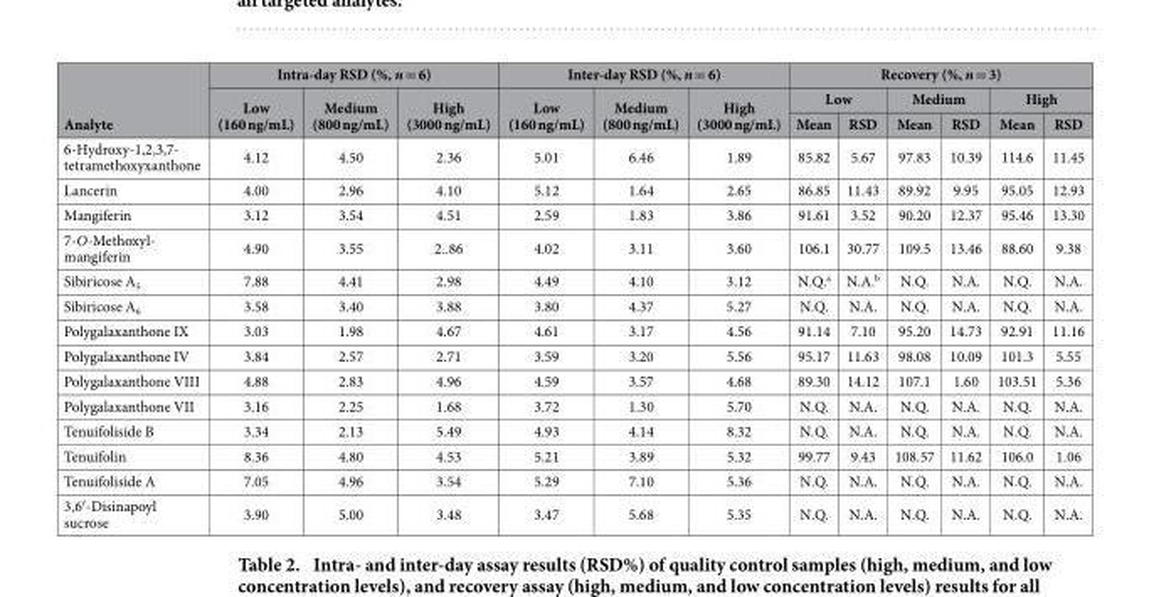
<table><thead><tr><td rowspan="3">Analyte</td><td colspan="3">Intra-day RSD (%, n = 6)</td><td colspan="3">Inter-day RSD (%, n = 6)</td><td colspan="6">Recovery (%, n = 3)</td></tr><tr><td rowspan="2">Low (160 ng/mL)</td><td rowspan="2">Medium (800 ng/mL)</td><td rowspan="2">High (3000 ng/mL)</td><td rowspan="2">Low (160 ng/mL)</td><td rowspan="2">Medium (800 ng/mL)</td><td rowspan="2">High (3000 ng/mL)</td><td colspan="2">Low</td><td colspan="2">Medium</td><td colspan="2">High</td></tr><tr><td>Mean</td><td>RSD</td><td>Mean</td><td>RSD</td><td>Mean</td><td>RSD</td></tr></thead><tbody><tr><td>6-Hydroxy-1,2,3,7- tetramethoxyxanthone</td><td>4.12</td><td>4.50</td><td>2.36</td><td>5.01</td><td>6.46</td><td>1.89</td><td>85.82</td><td>5.67</td><td>97.83</td><td>10.39</td><td>114.6</td><td>11.45</td></tr><tr><td>Lancerin</td><td>4.00</td><td>2.96</td><td>4.10</td><td>5.12</td><td>1.64</td><td>2.65</td><td>86.85</td><td>11.43</td><td>89.92</td><td>9.95</td><td>95.05</td><td>12.93</td></tr><tr><td>Mangiferin</td><td>3.12</td><td>3.54</td><td>4.51</td><td>2.59</td><td>1.83</td><td>3.86</td><td>91.61</td><td>3.52</td><td>90.20</td><td>12.37</td><td>95.46</td><td>13.30</td></tr><tr><td>7-O-Methoxyl- mangiferin</td><td>4.90</td><td>3.55</td><td>2..86</td><td>4.02</td><td>3.11</td><td>3.60</td><td>106.1</td><td>30.77</td><td>109.5</td><td>13.46</td><td>88.60</td><td>9.38</td></tr><tr><td>Sibiricose A<sub>5</sub></td><td>7.88</td><td>4.41</td><td>2.98</td><td>4.49</td><td>4.10</td><td>3.12</td><td>N.Q.<sup>a</sup></td><td>N.A.<sup>b</sup></td><td>N.Q.</td><td>N.A.</td><td>N.Q.</td><td>N.A.</td></tr><tr><td>Sibiricose A<sub>6</sub></td><td>3.58</td><td>3.40</td><td>3.88</td><td>3.80</td><td>4.37</td><td>5.27</td><td>N.Q.</td><td>N.A.</td><td>N.Q.</td><td>N.A.</td><td>N.Q.</td><td>N.A.</td></tr><tr><td>Polygalaxanthone IX</td><td>3.03</td><td>1.98</td><td>4.67</td><td>4.61</td><td>3.17</td><td>4.56</td><td>91.14</td><td>7.10</td><td>95.20</td><td>14.73</td><td>92.91</td><td>11.16</td></tr><tr><td>Polygalaxanthone IV</td><td>3.84</td><td>2.57</td><td>2.71</td><td>3.59</td><td>3.20</td><td>5.56</td><td>95.17</td><td>11.63</td><td>98.08</td><td>10.09</td><td>101.3</td><td>5.55</td></tr><tr><td>Polygalaxanthone VIII</td><td>4.88</td><td>2.83</td><td>4.96</td><td>4.59</td><td>3.57</td><td>4.68</td><td>89.30</td><td>14.12</td><td>107.1</td><td>1.60</td><td>103.51</td><td>5.36</td></tr><tr><td>Polygalaxanthone VII</td><td>3.16</td><td>2.25</td><td>1.68</td><td>3.72</td><td>1.30</td><td>5.70</td><td>N.Q.</td><td>N.A.</td><td>N.Q.</td><td>N.A.</td><td>N.Q.</td><td>N.A.</td></tr><tr><td>Tenuifoliside B</td><td>3.34</td><td>2.13</td><td>5.49</td><td>4.93</td><td>4.14</td><td>8.32</td><td>N.Q.</td><td>N.A.</td><td>N.Q.</td><td>N.A.</td><td>N.Q.</td><td>N.A.</td></tr><tr><td>Tenuifolin</td><td>8.36</td><td>4.80</td><td>4.53</td><td>5.21</td><td>3.89</td><td>5.32</td><td>99.77</td><td>9.43</td><td>108.57</td><td>11.62</td><td>106.0</td><td>1.06</td></tr><tr><td>Tenuifoliside A</td><td>7.05</td><td>4.96</td><td>3.54</td><td>5.29</td><td>7.10</td><td>5.36</td><td>N.Q.</td><td>N.A.</td><td>N.Q.</td><td>N.A.</td><td>N.Q.</td><td>N.A.</td></tr><tr><td>3,6′-Disinapoyl sucrose</td><td>3.90</td><td>5.00</td><td>3.48</td><td>3.47</td><td>5.68</td><td>5.35</td><td>N.Q.</td><td>N.A.</td><td>N.Q.</td><td>N.A.</td><td>N.Q.</td><td>N.A.</td></tr></tbody></table>